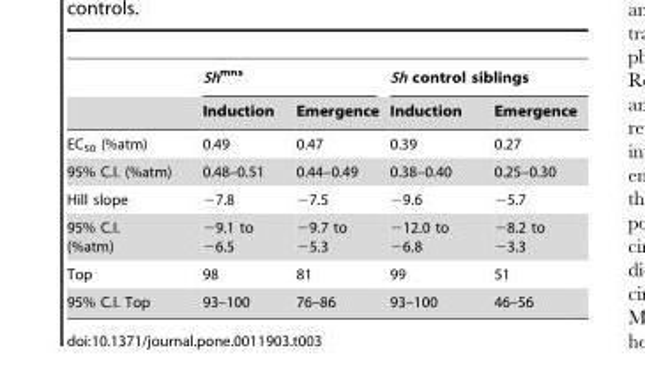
<table><thead><tr><td rowspan="2"></td><td colspan="2">Sh<sup>mns</sup></td><td colspan="2">Sh control siblings</td></tr><tr><td>Induction</td><td>Emergence</td><td>Induction</td><td>Emergence</td></tr></thead><tbody><tr><td>EC<sub>50</sub> (%atm)</td><td>0.49</td><td>0.47</td><td>0.39</td><td>0.27</td></tr><tr><td>95% C.I. (%atm)</td><td>0.48–0.51</td><td>0.44–0.49</td><td>0.38–0.40</td><td>0.25–0.30</td></tr><tr><td>Hill slope</td><td>−7.8</td><td>−7.5</td><td>−9.6</td><td>−5.7</td></tr><tr><td>95% C.I. (%atm)</td><td>−9.1 to −6.5</td><td>−9.7 to −5.3</td><td>−12.0 to −6.8</td><td>−8.2 to −3.3</td></tr><tr><td>Top</td><td>98</td><td>81</td><td>99</td><td>51</td></tr><tr><td>95% C.I. Top</td><td>93–100</td><td>76–86</td><td>93–100</td><td>46–56</td></tr></tbody></table>